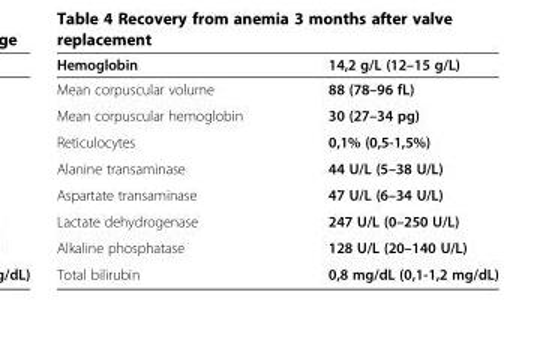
<table><thead><tr><td>Hemoglobin</td><td>14,2 g/L (12–15 g/L)</td></tr></thead><tbody><tr><td>Mean corpuscular volume</td><td>88 (78–96 fL)</td></tr><tr><td>Mean corpuscular hemoglobin</td><td>30 (27–34 pg)</td></tr><tr><td>Reticulocytes</td><td>0,1% (0,5-1,5%)</td></tr><tr><td>Alanine transaminase</td><td>44 U/L (5–38 U/L)</td></tr><tr><td>Aspartate transaminase</td><td>47 U/L (6–34 U/L)</td></tr><tr><td>Lactate dehydrogenase</td><td>247 U/L (0–250 U/L)</td></tr><tr><td>Alkaline phosphatase</td><td>128 U/L (20–140 U/L)</td></tr><tr><td>Total bilirubin</td><td>0,8 mg/dL (0,1-1,2 mg/dL)</td></tr></tbody></table>